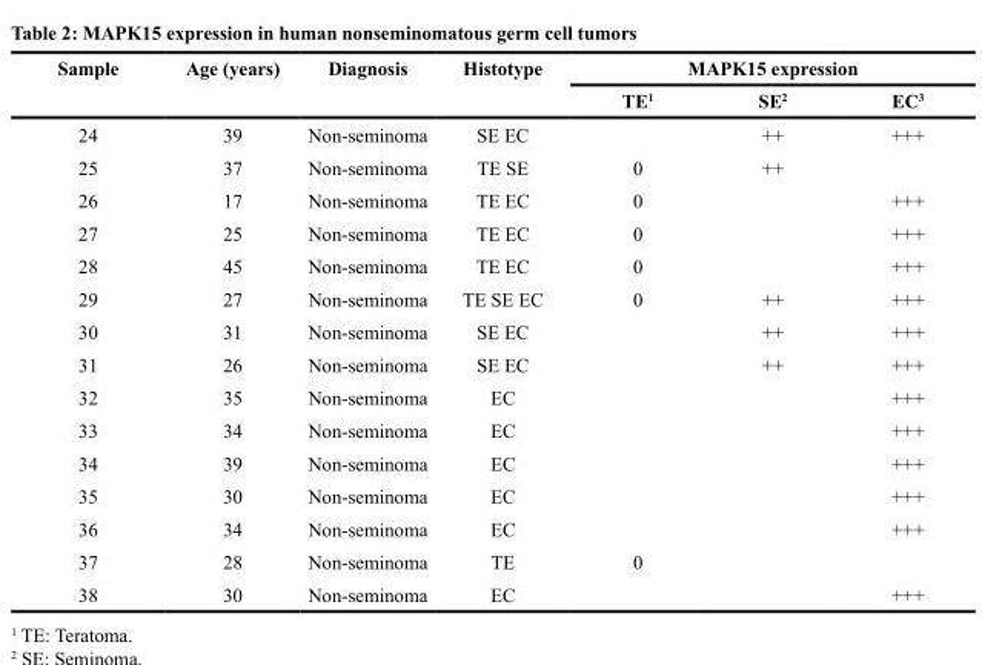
<table><thead><tr><td rowspan="2">Sample</td><td rowspan="2">Age (years)</td><td rowspan="2">Diagnosis</td><td rowspan="2">Histotype</td><td colspan="3">MAPK15 expression</td></tr><tr><td>TE<sup>1</sup></td><td>SE<sup>2</sup></td><td>EC<sup>3</sup></td></tr></thead><tbody><tr><td>24</td><td>39</td><td>Non-seminoma</td><td>SE EC</td><td></td><td>++</td><td>+++</td></tr><tr><td>25</td><td>37</td><td>Non-seminoma</td><td>TE SE</td><td>0</td><td>++</td><td></td></tr><tr><td>26</td><td>17</td><td>Non-seminoma</td><td>TE EC</td><td>0</td><td></td><td>+++</td></tr><tr><td>27</td><td>25</td><td>Non-seminoma</td><td>TE EC</td><td>0</td><td></td><td>+++</td></tr><tr><td>28</td><td>45</td><td>Non-seminoma</td><td>TE EC</td><td>0</td><td></td><td>+++</td></tr><tr><td>29</td><td>27</td><td>Non-seminoma</td><td>TE SE EC</td><td>0</td><td>++</td><td>+++</td></tr><tr><td>30</td><td>31</td><td>Non-seminoma</td><td>SE EC</td><td></td><td>++</td><td>+++</td></tr><tr><td>31</td><td>26</td><td>Non-seminoma</td><td>SE EC</td><td></td><td>++</td><td>+++</td></tr><tr><td>32</td><td>35</td><td>Non-seminoma</td><td>EC</td><td></td><td></td><td>+++</td></tr><tr><td>33</td><td>34</td><td>Non-seminoma</td><td>EC</td><td></td><td></td><td>+++</td></tr><tr><td>34</td><td>39</td><td>Non-seminoma</td><td>EC</td><td></td><td></td><td>+++</td></tr><tr><td>35</td><td>30</td><td>Non-seminoma</td><td>EC</td><td></td><td></td><td>+++</td></tr><tr><td>36</td><td>34</td><td>Non-seminoma</td><td>EC</td><td></td><td></td><td>+++</td></tr><tr><td>37</td><td>28</td><td>Non-seminoma</td><td>TE</td><td>0</td><td></td><td></td></tr><tr><td>38</td><td>30</td><td>Non-seminoma</td><td>EC</td><td></td><td></td><td>+++</td></tr></tbody></table>